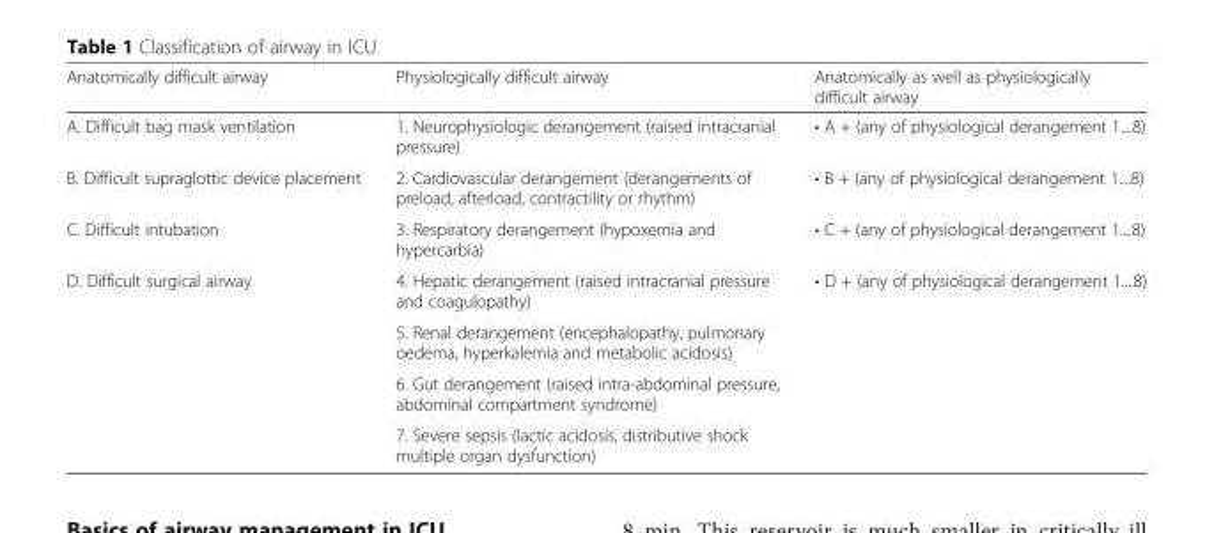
<table><thead><tr><td>Anatomically difficult airway</td><td>Physiologically difficult airway</td><td>Anatomically as well as physiologically difficult airway</td></tr></thead><tbody><tr><td>A. Difficult bag mask ventilation</td><td>1. Neurophysiologic derangement (raised intracranial pressure)</td><td>• A + (any of physiological derangement 1....8)</td></tr><tr><td>B. Difficult supraglottic device placement</td><td>2. Cardiovascular derangement (derangements of preload, afterload, contractility or rhythm)</td><td>• B + (any of physiological derangement 1....8)</td></tr><tr><td>C. Difficult intubation</td><td>3. Respiratory derangement (hypoxemia and hypercarbia)</td><td>• C + (any of physiological derangement 1....8)</td></tr><tr><td rowspan="4">D. Difficult surgical airway</td><td>4. Hepatic derangement (raised intracranial pressure and coagulopathy)</td><td>• D + (any of physiological derangement 1....8)</td></tr><tr><td>5. Renal derangement (encephalopathy, pulmonary oedema, hyperkalemia and metabolic acidosis)</td><td></td></tr><tr><td>6. Gut derangement (raised intra-abdominal pressure, abdominal compartment syndrome)</td><td></td></tr><tr><td>7. Severe sepsis (lactic acidosis, distributive shock multiple organ dysfunction)</td><td></td></tr></tbody></table>